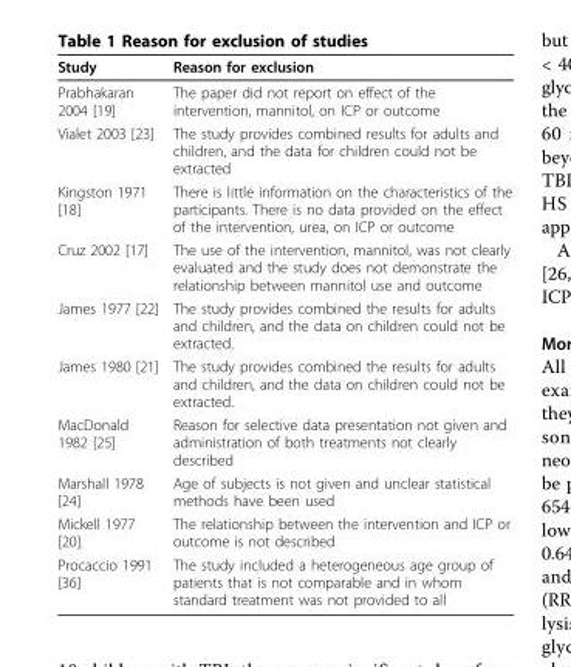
<table><thead><tr><td>Study</td><td>Reason for exclusion</td></tr></thead><tbody><tr><td>Prabhakaran 2004 [19]</td><td>The paper did not report on effect of the intervention, mannitol, on ICP or outcome</td></tr><tr><td>Vialet 2003 [23]</td><td>The study provides combined results for adults and children, and the data for children could not be extracted</td></tr><tr><td>Kingston 1971 [18]</td><td>There is little information on the characteristics of the participants. There is no data provided on the effect of the intervention, urea, on ICP or outcome</td></tr><tr><td>Cruz 2002 [17]</td><td>The use of the intervention, mannitol, was not clearly evaluated and the study does not demonstrate the relationship between mannitol use and outcome</td></tr><tr><td>James 1977 [22]</td><td>The study provides combined the results for adults and children, and the data on children could not be extracted.</td></tr><tr><td>James 1980 [21]</td><td>The study provides combined the results for adults and children, and the data on children could not be extracted.</td></tr><tr><td>MacDonald 1982 [25]</td><td>Reason for selective data presentation not given and administration of both treatments not clearly described</td></tr><tr><td>Marshall 1978 [24]</td><td>Age of subjects is not given and unclear statistical methods have been used</td></tr><tr><td>Mickell 1977 [20]</td><td>The relationship between the intervention and ICP or outcome is not described</td></tr><tr><td>Procaccio 1991 [36]</td><td>The study included a heterogeneous age group of patients that is not comparable and in whom standard treatment was not provided to all</td></tr></tbody></table>